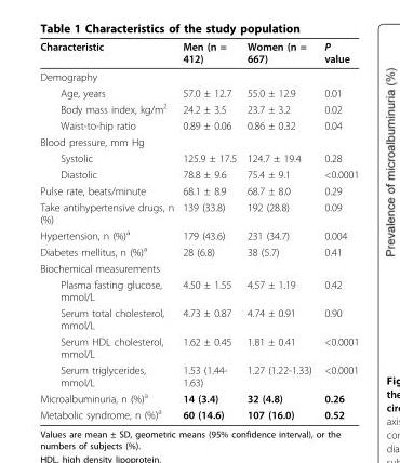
<table><thead><tr><td>Characteristic</td><td>Men (n = 412)</td><td>Women (n = 667)</td><td>P value</td></tr></thead><tbody><tr><td colspan="4">Demography</td></tr><tr><td>Age, years</td><td>57.0 ± 12.7</td><td>55.0 ± 12.9</td><td>0.01</td></tr><tr><td>Body mass index, kg/m<sup>2</sup></td><td>24.2 ± 3.5</td><td>23.7 ± 3.2</td><td>0.02</td></tr><tr><td>Waist-to-hip ratio</td><td>0.89 ± 0.06</td><td>0.86 ± 0.32</td><td>0.04</td></tr><tr><td colspan="4">Blood pressure, mm Hg</td></tr><tr><td>Systolic</td><td>125.9 ± 17.5</td><td>124.7 ± 19.4</td><td>0.28</td></tr><tr><td>Diastolic</td><td>78.8 ± 9.6</td><td>75.4 ± 9.1</td><td>&lt;0.0001</td></tr><tr><td>Pulse rate, beats/minute</td><td>68.1 ± 8.9</td><td>68.7 ± 8.0</td><td>0.29</td></tr><tr><td>Take antihypertensive drugs, n (%)</td><td>139 (33.8)</td><td>192 (28.8)</td><td>0.09</td></tr><tr><td>Hypertension, n (%)<sup>a</sup></td><td>179 (43.6)</td><td>231 (34.7)</td><td>0.004</td></tr><tr><td>Diabetes mellitus, n (%)<sup>a</sup></td><td>28 (6.8)</td><td>38 (5.7)</td><td>0.41</td></tr><tr><td colspan="4">Biochemical measurements</td></tr><tr><td>Plasma fasting glucose, mmol/L</td><td>4.50 ± 1.55</td><td>4.57 ± 1.19</td><td>0.42</td></tr><tr><td>Serum total cholesterol, mmol/L</td><td>4.73 ± 0.87</td><td>4.74 ± 0.91</td><td>0.90</td></tr><tr><td>Serum HDL cholesterol, mmol/L</td><td>1.62 ± 0.45</td><td>1.81 ± 0.41</td><td>&lt;0.0001</td></tr><tr><td>Serum triglycerides, mmol/L</td><td>1.53 (1.44- 1.63)</td><td>1.27 (1.22-1.33)</td><td>&lt;0.0001</td></tr><tr><td>Microalbuminuria, n (%)<sup>a</sup></td><td>14 (3.4)</td><td>32 (4.8)</td><td>0.26</td></tr><tr><td>Metabolic syndrome, n (%)<sup>a</sup></td><td>60 (14.6)</td><td>107 (16.0)</td><td>0.52</td></tr></tbody></table>